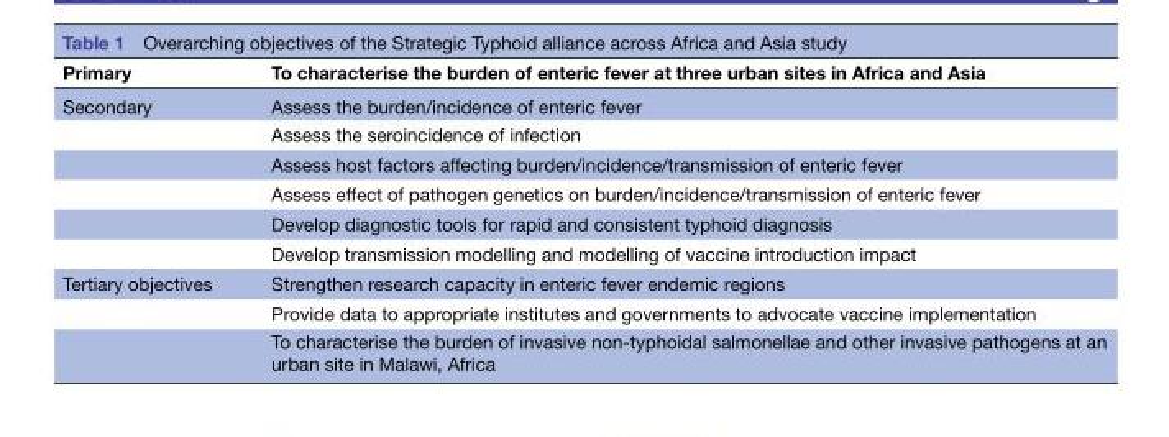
<table><thead><tr><td>Primary</td><td>To characterise the burden of enteric fever at three urban sites in Africa and Asia</td></tr></thead><tbody><tr><td rowspan="6">Secondary</td><td>Assess the burden/incidence of enteric fever</td></tr><tr><td>Assess the seroincidence of infection</td></tr><tr><td>Assess host factors affecting burden/incidence/transmission of enteric fever</td></tr><tr><td>Assess effect of pathogen genetics on burden/incidence/transmission of enteric fever</td></tr><tr><td>Develop diagnostic tools for rapid and consistent typhoid diagnosis</td></tr><tr><td>Develop transmission modelling and modelling of vaccine introduction impact</td></tr><tr><td rowspan="3">Tertiary objectives</td><td>Strengthen research capacity in enteric fever endemic regions</td></tr><tr><td>Provide data to appropriate institutes and governments to advocate vaccine implementation</td></tr><tr><td>To characterise the burden of invasive non-typhoidal salmonellae and other invasive pathogens at an urban site in Malawi, Africa</td></tr></tbody></table>